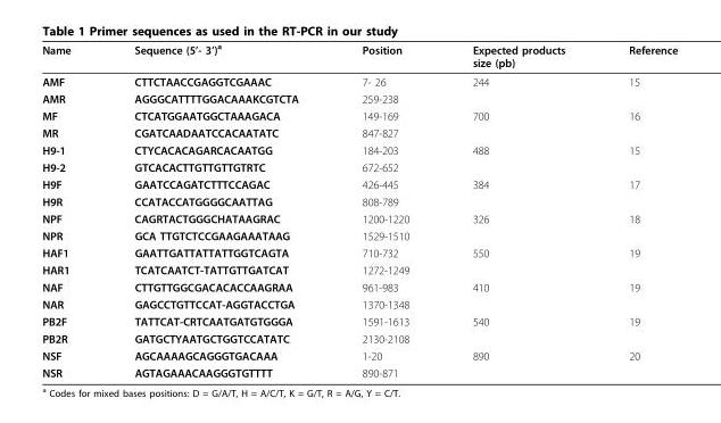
<table><thead><tr><td>Name</td><td>Sequence (5’- 3’)<sup>a</sup></td><td>Position</td><td>Expected products size (pb)</td><td>Reference</td></tr></thead><tbody><tr><td>AMF</td><td>CTTCTAACCGAGGTCGAAAC</td><td>7- 26</td><td>244</td><td>15</td></tr><tr><td>AMR</td><td>AGGGCATTTTGGACAAAKCGTCTA</td><td>259-238</td><td></td><td></td></tr><tr><td>MF</td><td>CTCATGGAATGGCTAAAGACA</td><td>149-169</td><td>700</td><td>16</td></tr><tr><td>MR</td><td>CGATCAADAATCCACAATATC</td><td>847-827</td><td></td><td></td></tr><tr><td>H9-1</td><td>CTYCACACAGARCACAATGG</td><td>184-203</td><td>488</td><td>15</td></tr><tr><td>H9-2</td><td>GTCACACTTGTTGTTGTRTC</td><td>672-652</td><td></td><td></td></tr><tr><td>H9F</td><td>GAATCCAGATCTTTCCAGAC</td><td>426-445</td><td>384</td><td>17</td></tr><tr><td>H9R</td><td>CCATACCATGGGGCAATTAG</td><td>808-789</td><td></td><td></td></tr><tr><td>NPF</td><td>CAGRTACTGGGCHATAAGRAC</td><td>1200-1220</td><td>326</td><td>18</td></tr><tr><td>NPR</td><td>GCA TTGTCTCCGAAGAAATAAG</td><td>1529-1510</td><td></td><td></td></tr><tr><td>HAF1</td><td>GAATTGATTATTATTGGTCAGTA</td><td>710-732</td><td>550</td><td>19</td></tr><tr><td>HAR1</td><td>TCATCAATCT-TATTGTTGATCAT</td><td>1272-1249</td><td></td><td></td></tr><tr><td>NAF</td><td>CTTGTTGGCGACACACCAAGRAA</td><td>961-983</td><td>410</td><td>19</td></tr><tr><td>NAR</td><td>GAGCCTGTTCCAT-AGGTACCTGA</td><td>1370-1348</td><td></td><td></td></tr><tr><td>PB2F</td><td>TATTCAT-CRTCAATGATGTGGGA</td><td>1591-1613</td><td>540</td><td>19</td></tr><tr><td>PB2R</td><td>GATGCTYAATGCTGGTCCATATC</td><td>2130-2108</td><td></td><td></td></tr><tr><td>NSF</td><td>AGCAAAAGCAGGGTGACAAA</td><td>1-20</td><td>890</td><td>20</td></tr><tr><td>NSR</td><td>AGTAGAAACAAGGGTGTTTT</td><td>890-871</td><td></td><td></td></tr></tbody></table>